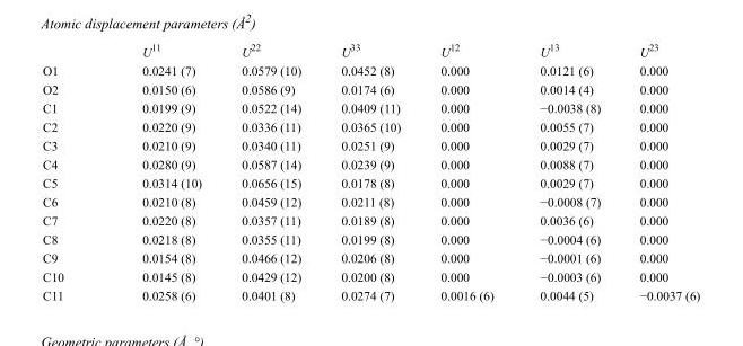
<table><thead><tr><td></td><td>U<sup>11</sup></td><td>U<sup>22</sup></td><td>U<sup>33</sup></td><td>U<sup>12</sup></td><td>U<sup>13</sup></td><td>U<sup>23</sup></td></tr></thead><tbody><tr><td>O1</td><td>0.0241 (7)</td><td>0.0579 (10)</td><td>0.0452 (8)</td><td>0.000</td><td>0.0121 (6)</td><td>0.000</td></tr><tr><td>O2</td><td>0.0150 (6)</td><td>0.0586 (9)</td><td>0.0174 (6)</td><td>0.000</td><td>0.0014 (4)</td><td>0.000</td></tr><tr><td>C1</td><td>0.0199 (9)</td><td>0.0522 (14)</td><td>0.0409 (11)</td><td>0.000</td><td>−0.0038 (8)</td><td>0.000</td></tr><tr><td>C2</td><td>0.0220 (9)</td><td>0.0336 (11)</td><td>0.0365 (10)</td><td>0.000</td><td>0.0055 (7)</td><td>0.000</td></tr><tr><td>C3</td><td>0.0210 (9)</td><td>0.0340 (11)</td><td>0.0251 (9)</td><td>0.000</td><td>0.0029 (7)</td><td>0.000</td></tr><tr><td>C4</td><td>0.0280 (9)</td><td>0.0587 (14)</td><td>0.0239 (9)</td><td>0.000</td><td>0.0088 (7)</td><td>0.000</td></tr><tr><td>C5</td><td>0.0314 (10)</td><td>0.0656 (15)</td><td>0.0178 (8)</td><td>0.000</td><td>0.0029 (7)</td><td>0.000</td></tr><tr><td>C6</td><td>0.0210 (8)</td><td>0.0459 (12)</td><td>0.0211 (8)</td><td>0.000</td><td>−0.0008 (7)</td><td>0.000</td></tr><tr><td>C7</td><td>0.0220 (8)</td><td>0.0357 (11)</td><td>0.0189 (8)</td><td>0.000</td><td>0.0036 (6)</td><td>0.000</td></tr><tr><td>C8</td><td>0.0218 (8)</td><td>0.0355 (11)</td><td>0.0199 (8)</td><td>0.000</td><td>−0.0004 (6)</td><td>0.000</td></tr><tr><td>C9</td><td>0.0154 (8)</td><td>0.0466 (12)</td><td>0.0206 (8)</td><td>0.000</td><td>−0.0001 (6)</td><td>0.000</td></tr><tr><td>C10</td><td>0.0145 (8)</td><td>0.0429 (12)</td><td>0.0200 (8)</td><td>0.000</td><td>−0.0003 (6)</td><td>0.000</td></tr><tr><td>C11</td><td>0.0258 (6)</td><td>0.0401 (8)</td><td>0.0274 (7)</td><td>0.0016 (6)</td><td>0.0044 (5)</td><td>−0.0037 (6)</td></tr></tbody></table>